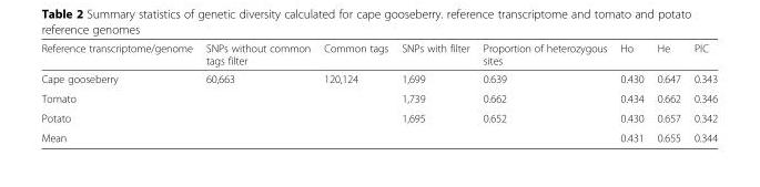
<table><thead><tr><td>Reference transcriptome/genome</td><td>SNPs without common tags filter</td><td>Common tags</td><td>SNPs with filter</td><td>Proportion of heterozygous sites</td><td>Ho</td><td>He</td><td>PIC</td></tr></thead><tbody><tr><td>Cape gooseberry</td><td>60,663</td><td rowspan="3">120,124</td><td>1,699</td><td>0.639</td><td>0.430</td><td>0.647</td><td>0.343</td></tr><tr><td>Tomato</td><td rowspan="2"></td><td>1,739</td><td>0.662</td><td>0.434</td><td>0.662</td><td>0.346</td></tr><tr><td>Potato</td><td>1,695</td><td>0.652</td><td>0.430</td><td>0.657</td><td>0.342</td></tr><tr><td>Mean</td><td></td><td></td><td></td><td></td><td>0.431</td><td>0.655</td><td>0.344</td></tr></tbody></table>